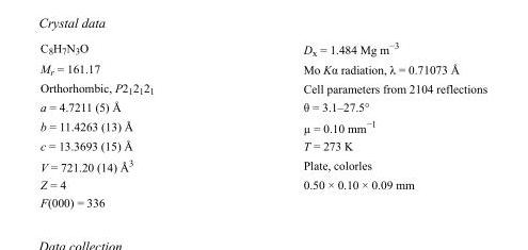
<table><tbody><tr><td>C<sub>8</sub>H<sub>7</sub>N<sub>3</sub>O</td><td>D<sub>x</sub> = 1.484 Mg m<sup>−3</sup></td></tr><tr><td>M<sub>r</sub> = 161.17</td><td>Mo Kα radiation, λ = 0.71073 Å</td></tr><tr><td>Orthorhombic, P2<sub>1</sub>2<sub>1</sub>2<sub>1</sub></td><td>Cell parameters from 2104 reflections</td></tr><tr><td>a = 4.7211 (5) Å</td><td>θ = 3.1–27.5°</td></tr><tr><td>b = 11.4263 (13) Å</td><td>µ = 0.10 mm<sup>−1</sup></td></tr><tr><td>c = 13.3693 (15) Å</td><td>T = 273 K</td></tr><tr><td>V = 721.20 (14) Å<sup>3</sup></td><td>Plate, colorles</td></tr><tr><td>Z = 4</td><td>0.50 × 0.10 × 0.09 mm</td></tr><tr><td>F(000) = 336</td><td></td></tr></tbody></table>